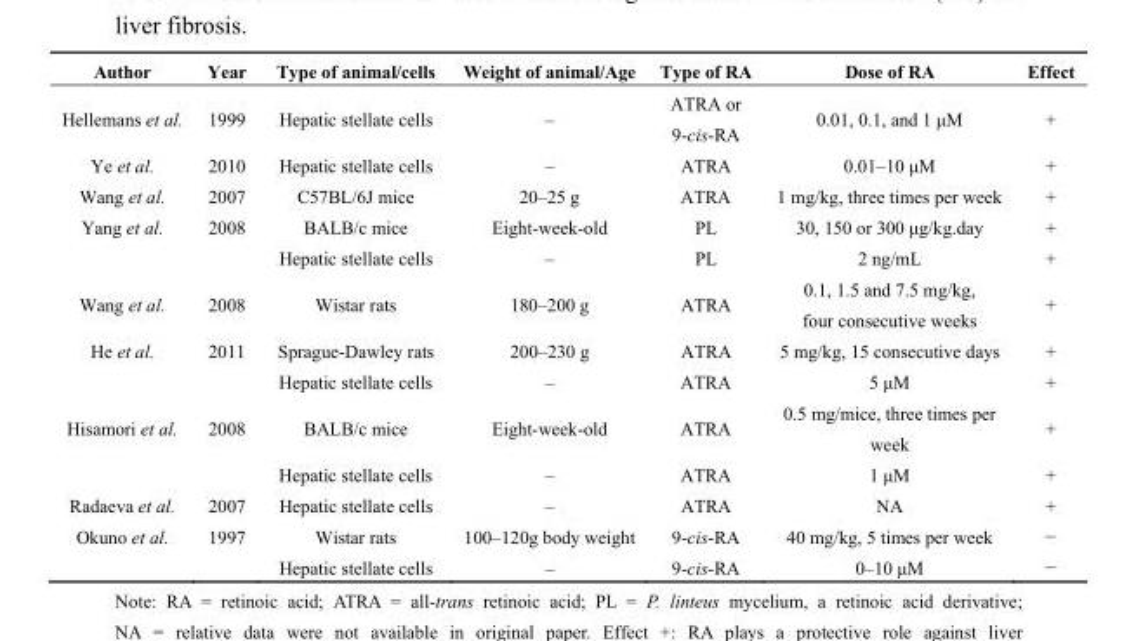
<table><thead><tr><td>Author</td><td>Year</td><td>Type of animal/cells</td><td>Weight of animal/Age</td><td>Type of RA</td><td>Dose of RA</td><td>Effect</td></tr></thead><tbody><tr><td>Hellemans et al.</td><td>1999</td><td>Hepatic stellate cells</td><td>–</td><td>ATRA or 9-cis-RA</td><td>0.01, 0.1, and 1 μM</td><td>+</td></tr><tr><td>Ye et al.</td><td>2010</td><td>Hepatic stellate cells</td><td>–</td><td>ATRA</td><td>0.01–10 μM</td><td>+</td></tr><tr><td>Wang et al.</td><td>2007</td><td>C57BL/6J mice</td><td>20–25 g</td><td>ATRA</td><td>1 mg/kg, three times per week</td><td>+</td></tr><tr><td rowspan="2">Yang et al.</td><td>2008</td><td>BALB/c mice</td><td>Eight-week-old</td><td>PL</td><td>30, 150 or 300 μg/kg.day</td><td>+</td></tr><tr><td></td><td>Hepatic stellate cells</td><td>–</td><td>PL</td><td>2 ng/mL</td><td>+</td></tr><tr><td>Wang et al.</td><td>2008</td><td>Wistar rats</td><td>180–200 g</td><td>ATRA</td><td>0.1, 1.5 and 7.5 mg/kg, four consecutive weeks</td><td>+</td></tr><tr><td rowspan="2">He et al.</td><td>2011</td><td>Sprague-Dawley rats</td><td>200–230 g</td><td>ATRA</td><td>5 mg/kg, 15 consecutive days</td><td>+</td></tr><tr><td></td><td>Hepatic stellate cells</td><td>–</td><td>ATRA</td><td>5 μM</td><td>+</td></tr><tr><td rowspan="2">Hisamori et al.</td><td>2008</td><td>BALB/c mice</td><td>Eight-week-old</td><td>ATRA</td><td>0.5 mg/mice, three times per week</td><td>+</td></tr><tr><td></td><td>Hepatic stellate cells</td><td>–</td><td>ATRA</td><td>1 μM</td><td>+</td></tr><tr><td>Radaeva et al.</td><td>2007</td><td>Hepatic stellate cells</td><td>–</td><td>ATRA</td><td>NA</td><td>+</td></tr><tr><td rowspan="2">Okuno et al.</td><td>1997</td><td>Wistar rats</td><td>100–120g body weight</td><td>9-cis-RA</td><td>40 mg/kg, 5 times per week</td><td>−</td></tr><tr><td></td><td>Hepatic stellate cells</td><td>–</td><td>9-cis-RA</td><td>0–10 μM</td><td>−</td></tr></tbody></table>